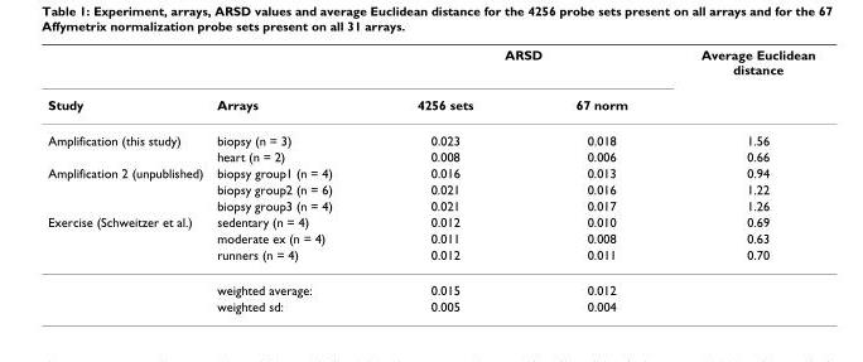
<table><thead><tr><td rowspan="2">Study</td><td rowspan="2">Arrays</td><td colspan="2">ARSD</td><td rowspan="2">Average Euclidean distance</td></tr><tr><td>4256 sets</td><td>67 norm</td></tr></thead><tbody><tr><td rowspan="2">Amplification (this study)</td><td>biopsy (n = 3)</td><td>0.023</td><td>0.018</td><td>1.56</td></tr><tr><td>heart (n = 2)</td><td>0.008</td><td>0.006</td><td>0.66</td></tr><tr><td rowspan="3">Amplification 2 (unpublished)</td><td>biopsy group1 (n = 4)</td><td>0.016</td><td>0.013</td><td>0.94</td></tr><tr><td>biopsy group2 (n = 6)</td><td>0.021</td><td>0.016</td><td>1.22</td></tr><tr><td>biopsy group3 (n = 4)</td><td>0.021</td><td>0.017</td><td>1.26</td></tr><tr><td rowspan="5">Exercise (Schweitzer et al.)</td><td>sedentary (n = 4)</td><td>0.012</td><td>0.010</td><td>0.69</td></tr><tr><td>moderate ex (n = 4)</td><td>0.011</td><td>0.008</td><td>0.63</td></tr><tr><td>runners (n = 4)</td><td>0.012</td><td>0.011</td><td>0.70</td></tr><tr><td>weighted average:</td><td>0.015</td><td>0.012</td><td></td></tr><tr><td>weighted sd:</td><td>0.005</td><td>0.004</td><td></td></tr></tbody></table>